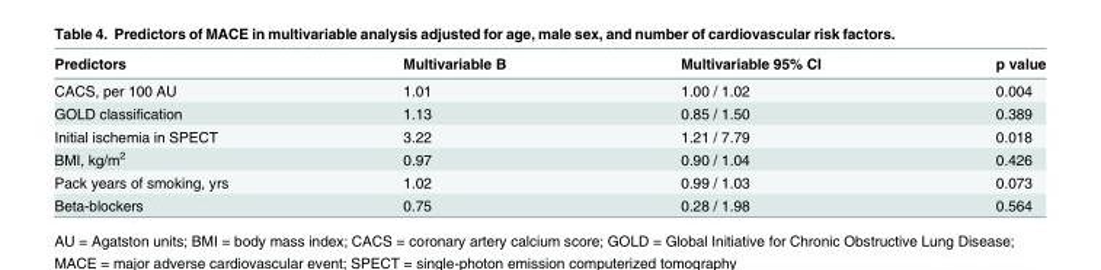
<table><thead><tr><td>Predictors</td><td>Multivariable B</td><td>Multivariable 95% CI</td><td>p value</td></tr></thead><tbody><tr><td>CACS, per 100 AU</td><td>1.01</td><td>1.00 / 1.02</td><td>0.004</td></tr><tr><td>GOLD classification</td><td>1.13</td><td>0.85 / 1.50</td><td>0.389</td></tr><tr><td>Initial ischemia in SPECT</td><td>3.22</td><td>1.21 / 7.79</td><td>0.018</td></tr><tr><td>BMI, kg/m<sup>2</sup></td><td>0.97</td><td>0.90 / 1.04</td><td>0.426</td></tr><tr><td>Pack years of smoking, yrs</td><td>1.02</td><td>0.99 / 1.03</td><td>0.073</td></tr><tr><td>Beta-blockers</td><td>0.75</td><td>0.28 / 1.98</td><td>0.564</td></tr></tbody></table>